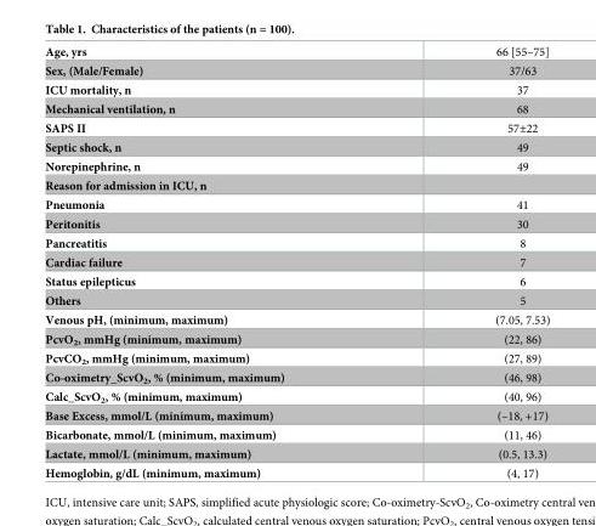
<table><tbody><tr><td>Age, yrs</td><td>66 [55–75]</td></tr><tr><td>Sex, (Male/Female)</td><td>37/63</td></tr><tr><td>ICU mortality, n</td><td>37</td></tr><tr><td>Mechanical ventilation, n</td><td>68</td></tr><tr><td>SAPS II</td><td>57±22</td></tr><tr><td>Septic shock, n</td><td>49</td></tr><tr><td>Norepinephrine, n</td><td>49</td></tr><tr><td colspan="2">Reason for admission in ICU, n</td></tr><tr><td>Pneumonia</td><td>41</td></tr><tr><td>Peritonitis</td><td>30</td></tr><tr><td>Pancreatitis</td><td>8</td></tr><tr><td>Cardiac failure</td><td>7</td></tr><tr><td>Status epilepticus</td><td>6</td></tr><tr><td>Others</td><td>5</td></tr><tr><td>Venous pH, (minimum, maximum)</td><td>(7.05, 7.53)</td></tr><tr><td>PcvO<sub>2</sub>, mmHg (minimum, maximum)</td><td>(22, 86)</td></tr><tr><td>PcvCO<sub>2</sub>, mmHg (minimum, maximum)</td><td>(27, 89)</td></tr><tr><td>Co-oximetry_ScvO<sub>2</sub>, % (minimum, maximum)</td><td>(46, 98)</td></tr><tr><td>Calc_ScvO<sub>2</sub>, % (minimum, maximum)</td><td>(40, 96)</td></tr><tr><td>Base Excess, mmol/L (minimum, maximum)</td><td>(–18, +17)</td></tr><tr><td>Bicarbonate, mmol/L (minimum, maximum)</td><td>(11, 46)</td></tr><tr><td>Lactate, mmol/L (minimum, maximum)</td><td>(0.5, 13.3)</td></tr><tr><td>Hemoglobin, g/dL (minimum, maximum)</td><td>(4, 17)</td></tr></tbody></table>